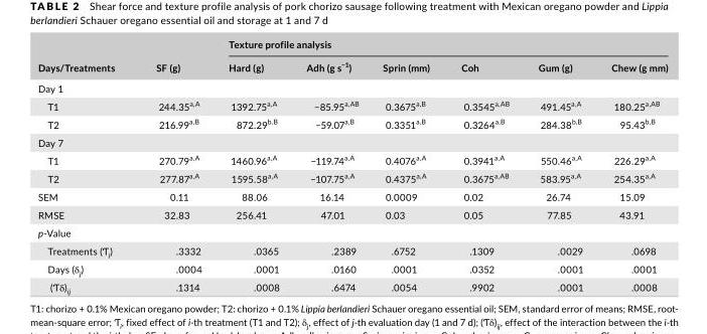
<table><thead><tr><td rowspan="2">Days/Treatments</td><td rowspan="2">SF (g)</td><td colspan="6">Texture profile analysis</td></tr><tr><td>Hard (g)</td><td>Adh (g s<sup>−1</sup>)</td><td>Sprin (mm)</td><td>Coh</td><td>Gum (g)</td><td>Chew (g mm)</td></tr></thead><tbody><tr><td colspan="8">Day 1</td></tr><tr><td>T1</td><td>244.35<sup>a,A</sup></td><td>1392.75<sup>a,A</sup></td><td>−85.95<sup>a,AB</sup></td><td>0.3675<sup>a,B</sup></td><td>0.3545<sup>a,AB</sup></td><td>491.45<sup>a,A</sup></td><td>180.25<sup>a,AB</sup></td></tr><tr><td>T2</td><td>216.99<sup>a,B</sup></td><td>872.29<sup>b,B</sup></td><td>−59.07<sup>a,B</sup></td><td>0.3351<sup>a,B</sup></td><td>0.3264<sup>a,B</sup></td><td>284.38<sup>b,B</sup></td><td>95.43<sup>b,B</sup></td></tr><tr><td colspan="8">Day 7</td></tr><tr><td>T1</td><td>270.79<sup>a,A</sup></td><td>1460.96<sup>a,A</sup></td><td>−119.74<sup>a,A</sup></td><td>0.4076<sup>a,A</sup></td><td>0.3941<sup>a,A</sup></td><td>550.46<sup>a,A</sup></td><td>226.29<sup>a,A</sup></td></tr><tr><td>T2</td><td>277.87<sup>a,A</sup></td><td>1595.58<sup>a,A</sup></td><td>−107.75<sup>a,A</sup></td><td>0.4375<sup>a,A</sup></td><td>0.3675<sup>a,AB</sup></td><td>583.95<sup>a,A</sup></td><td>254.35<sup>a,A</sup></td></tr><tr><td>SEM</td><td>0.11</td><td>88.06</td><td>16.14</td><td>0.0009</td><td>0.02</td><td>26.74</td><td>15.09</td></tr><tr><td>RMSE</td><td>32.83</td><td>256.41</td><td>47.01</td><td>0.03</td><td>0.05</td><td>77.85</td><td>43.91</td></tr><tr><td colspan="8">p- Value</td></tr><tr><td>Treatments (Ƭ<sub>i</sub>)</td><td>.3332</td><td>.0365</td><td>.2389</td><td>.6752</td><td>.1309</td><td>.0029</td><td>.0698</td></tr><tr><td>Days (δ<sub>j</sub>)</td><td>.0004</td><td>.0001</td><td>.0160</td><td>.0001</td><td>.0352</td><td>.0001</td><td>.0001</td></tr><tr><td>(Ƭδ)<sub>ij</sub></td><td>.1314</td><td>.0008</td><td>.6474</td><td>.0054</td><td>.9902</td><td>.0001</td><td>.0008</td></tr></tbody></table>